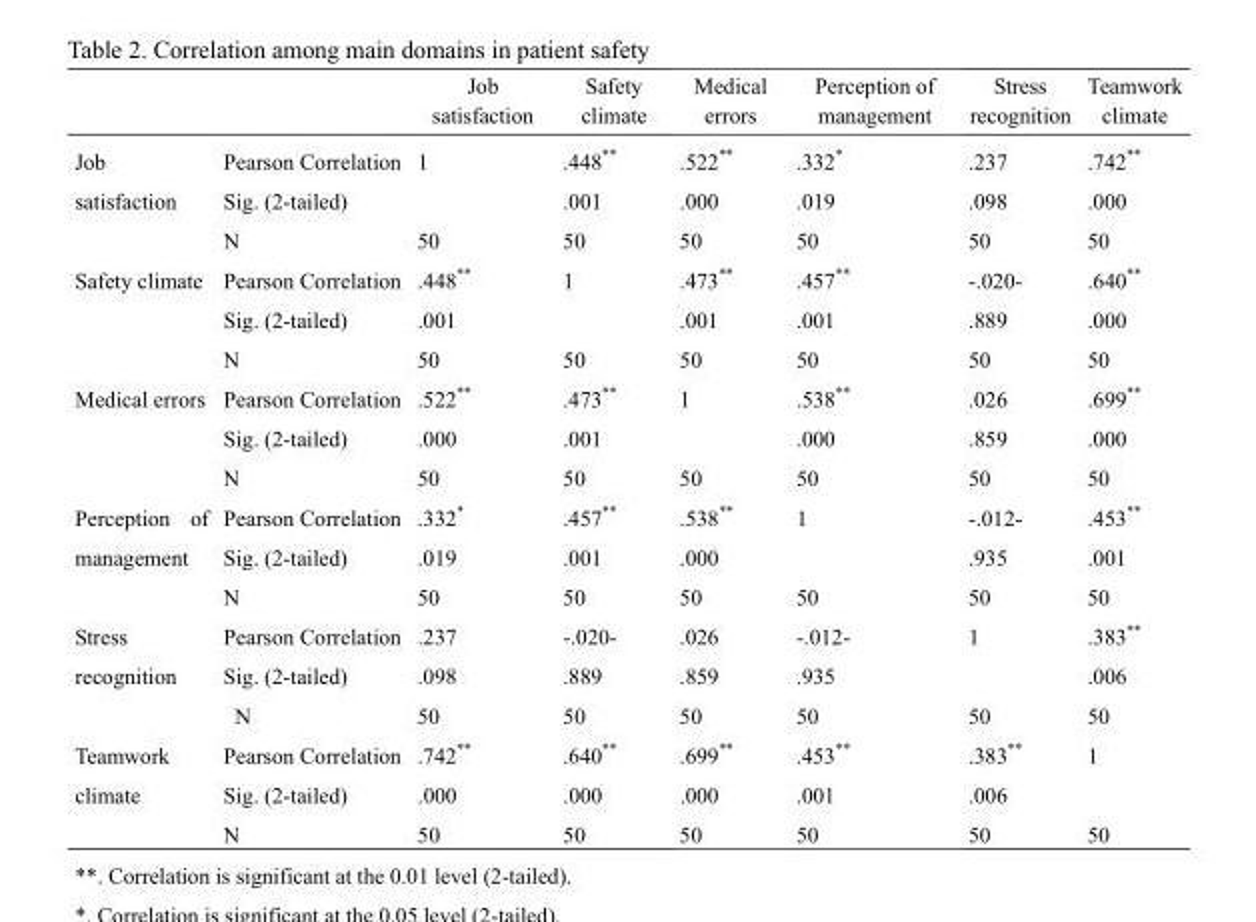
<table><thead><tr><td></td><td></td><td>Job satisfaction</td><td>Safety climate</td><td>Medical errors</td><td>Perception of management</td><td>Stress recognition</td><td>Teamwork climate</td></tr></thead><tbody><tr><td rowspan="3">Job satisfaction</td><td>Pearson Correlation</td><td>1</td><td>.448**</td><td>.522**</td><td>.332*</td><td>.237</td><td>.742**</td></tr><tr><td>Sig. (2-tailed)</td><td></td><td>.001</td><td>.000</td><td>.019</td><td>.098</td><td>.000</td></tr><tr><td>N</td><td>50</td><td>50</td><td>50</td><td>50</td><td>50</td><td>50</td></tr><tr><td rowspan="3">Safety climate</td><td>Pearson Correlation</td><td>.448**</td><td>1</td><td>.473**</td><td>.457**</td><td>-.020-</td><td>.640**</td></tr><tr><td>Sig. (2-tailed)</td><td>.001</td><td></td><td>.001</td><td>.001</td><td>.889</td><td>.000</td></tr><tr><td>N</td><td>50</td><td>50</td><td>50</td><td>50</td><td>50</td><td>50</td></tr><tr><td rowspan="3">Medical errors</td><td>Pearson Correlation</td><td>.522**</td><td>.473**</td><td>1</td><td>.538**</td><td>.026</td><td>.699**</td></tr><tr><td>Sig. (2-tailed)</td><td>.000</td><td>.001</td><td></td><td>.000</td><td>.859</td><td>.000</td></tr><tr><td>N</td><td>50</td><td>50</td><td>50</td><td>50</td><td>50</td><td>50</td></tr><tr><td rowspan="3">Perception of management</td><td>Pearson Correlation</td><td>.332*</td><td>.457**</td><td>.538**</td><td>1</td><td>-.012-</td><td>.453**</td></tr><tr><td>Sig. (2-tailed)</td><td>.019</td><td>.001</td><td>.000</td><td></td><td>.935</td><td>.001</td></tr><tr><td>N</td><td>50</td><td>50</td><td>50</td><td>50</td><td>50</td><td>50</td></tr><tr><td rowspan="3">Stress recognition</td><td>Pearson Correlation</td><td>.237</td><td>-.020-</td><td>.026</td><td>-.012-</td><td>1</td><td>.383**</td></tr><tr><td>Sig. (2-tailed)</td><td>.098</td><td>.889</td><td>.859</td><td>.935</td><td></td><td>.006</td></tr><tr><td>N</td><td>50</td><td>50</td><td>50</td><td>50</td><td>50</td><td>50</td></tr><tr><td rowspan="3">Teamwork climate</td><td>Pearson Correlation</td><td>.742**</td><td>.640**</td><td>.699**</td><td>.453**</td><td>.383**</td><td>1</td></tr><tr><td>Sig. (2-tailed)</td><td>.000</td><td>.000</td><td>.000</td><td>.001</td><td>.006</td><td></td></tr><tr><td>N</td><td>50</td><td>50</td><td>50</td><td>50</td><td>50</td><td>50</td></tr></tbody></table>